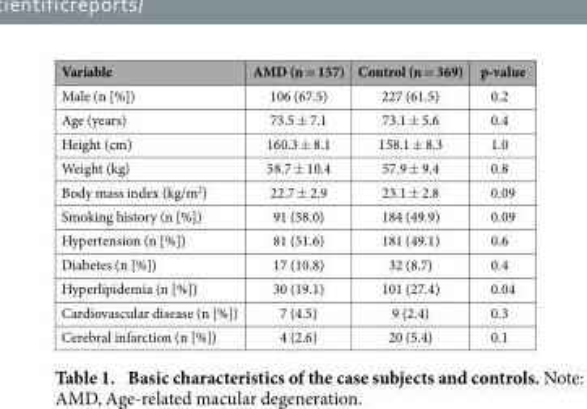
<table><thead><tr><td>Variable</td><td>AMD (n = 157)</td><td>Control (n = 369)</td><td>p-value</td></tr></thead><tbody><tr><td>Male (n [%])</td><td>106 (67.5)</td><td>227 (61.5)</td><td>0.2</td></tr><tr><td>Age (years)</td><td>73.5 ± 7.1</td><td>73.1 ± 5.6</td><td>0.4</td></tr><tr><td>Height (cm)</td><td>160.3 ± 8.1</td><td>158.1 ± 8.3</td><td>1.0</td></tr><tr><td>Weight (kg)</td><td>58.7 ± 10.4</td><td>57.9 ± 9.4</td><td>0.8</td></tr><tr><td>Body mass index (kg/m<sup>2</sup>)</td><td>22.7 ± 2.9</td><td>23.1 ± 2.8</td><td>0.09</td></tr><tr><td>Smoking history (n [%])</td><td>91 (58.0)</td><td>184 (49.9)</td><td>0.09</td></tr><tr><td>Hypertension (n [%])</td><td>81 (51.6)</td><td>181 (49.1)</td><td>0.6</td></tr><tr><td>Diabetes (n [%])</td><td>17 (10.8)</td><td>32 (8.7)</td><td>0.4</td></tr><tr><td>Hyperlipidemia (n [%])</td><td>30 (19.1)</td><td>101 (27.4)</td><td>0.04</td></tr><tr><td>Cardiovascular disease (n [%])</td><td>7 (4.5)</td><td>9 (2.4)</td><td>0.3</td></tr><tr><td>Cerebral infarction (n [%])</td><td>4 (2.6)</td><td>20 (5.4)</td><td>0.1</td></tr></tbody></table>